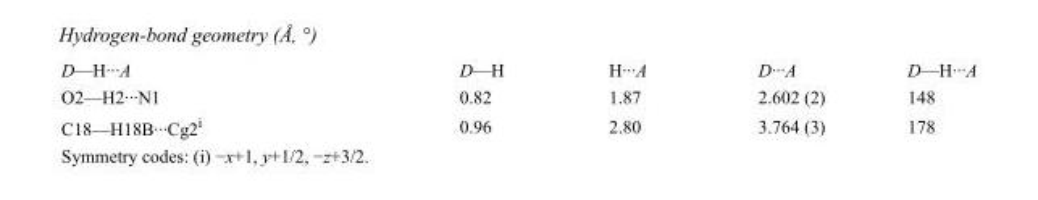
<table><tbody><tr><td>D—H···A</td><td>D—H</td><td>H···A</td><td>D···A</td><td>D—H···A</td></tr><tr><td>O2—H2···N1</td><td>0.82</td><td>1.87</td><td>2.602 (2)</td><td>148</td></tr><tr><td>C18—H18B···Cg2<sup>i</sup></td><td>0.96</td><td>2.80</td><td>3.764 (3)</td><td>178</td></tr></tbody></table>